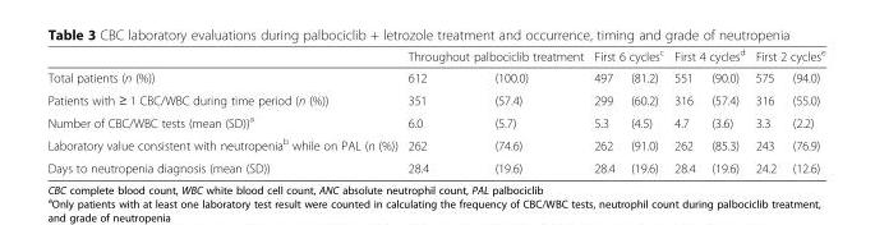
<table><thead><tr><td rowspan="2">Total patients (n (%))</td><td colspan="2">Throughout palbociclib treatment</td><td colspan="2">First 6 cycles<sup>c</sup></td><td colspan="2">First 4 cycles<sup>d</sup></td><td colspan="2">First 2 cycles<sup>e</sup></td></tr><tr><td>612</td><td>(100.0)</td><td>497</td><td>(81.2)</td><td>551</td><td>(90.0)</td><td>575</td><td>(94.0)</td></tr></thead><tbody><tr><td>Patients with ≥ 1 CBC/WBC during time period (n (%))</td><td>351</td><td>(57.4)</td><td>299</td><td>(60.2)</td><td>316</td><td>(57.4)</td><td>316</td><td>(55.0)</td></tr><tr><td>Number of CBC/WBC tests (mean (SD))<sup>a</sup></td><td>6.0</td><td>(5.7)</td><td>5.3</td><td>(4.5)</td><td>4.7</td><td>(3.6)</td><td>3.3</td><td>(2.2)</td></tr><tr><td>Laboratory value consistent with neutropenia<sup>b</sup> while on PAL (n (%))</td><td>262</td><td>(74.6)</td><td>262</td><td>(91.0)</td><td>262</td><td>(85.3)</td><td>243</td><td>(76.9)</td></tr><tr><td>Days to neutropenia diagnosis (mean (SD))</td><td>28.4</td><td>(19.6)</td><td>28.4</td><td>(19.6)</td><td>28.4</td><td>(19.6)</td><td>24.2</td><td>(12.6)</td></tr></tbody></table>